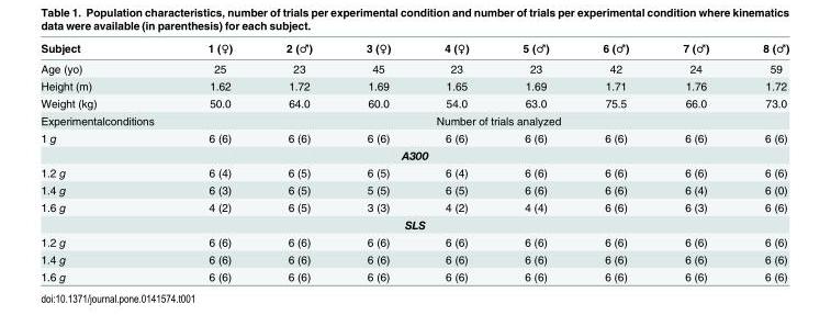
<table><thead><tr><td>Subject</td><td>1 (♀)</td><td>2 (♂)</td><td>3 (♀)</td><td>4 (♀)</td><td>5 (♂)</td><td>6 (♂)</td><td>7 (♂)</td><td>8 (♂)</td></tr></thead><tbody><tr><td>Age (yo)</td><td>25</td><td>23</td><td>45</td><td>23</td><td>23</td><td>42</td><td>24</td><td>59</td></tr><tr><td>Height (m)</td><td>1.62</td><td>1.72</td><td>1.69</td><td>1.65</td><td>1.69</td><td>1.71</td><td>1.76</td><td>1.72</td></tr><tr><td>Weight (kg)</td><td>50.0</td><td>64.0</td><td>60.0</td><td>54.0</td><td>63.0</td><td>75.5</td><td>66.0</td><td>73.0</td></tr><tr><td>Experimentalconditions</td><td colspan="8">Number of trials analyzed</td></tr><tr><td>1 g</td><td>6 (6)</td><td>6 (6)</td><td>6 (6)</td><td>6 (6)</td><td>6 (6)</td><td>6 (6)</td><td>6 (6)</td><td>6 (6)</td></tr><tr><td colspan="9">A300</td></tr><tr><td>1.2 g</td><td>6 (4)</td><td>6 (5)</td><td>6 (5)</td><td>6 (4)</td><td>6 (6)</td><td>6 (6)</td><td>6 (6)</td><td>6 (6)</td></tr><tr><td>1.4 g</td><td>6 (3)</td><td>6 (5)</td><td>5 (5)</td><td>6 (5)</td><td>6 (6)</td><td>6 (6)</td><td>6 (4)</td><td>6 (0)</td></tr><tr><td>1.6 g</td><td>4 (2)</td><td>6 (5)</td><td>3 (3)</td><td>4 (2)</td><td>4 (4)</td><td>6 (6)</td><td>6 (3)</td><td>6 (6)</td></tr><tr><td colspan="9">SLS</td></tr><tr><td>1.2 g</td><td>6 (6)</td><td>6 (6)</td><td>6 (6)</td><td>6 (6)</td><td>6 (6)</td><td>6 (6)</td><td>6 (6)</td><td>6 (6)</td></tr><tr><td>1.4 g</td><td>6 (6)</td><td>6 (6)</td><td>6 (6)</td><td>6 (6)</td><td>6 (6)</td><td>6 (6)</td><td>6 (6)</td><td>6 (6)</td></tr><tr><td>1.6 g</td><td>6 (6)</td><td>6 (6)</td><td>6 (6)</td><td>6 (6)</td><td>6 (6)</td><td>6 (6)</td><td>6 (6)</td><td>6 (6)</td></tr></tbody></table>